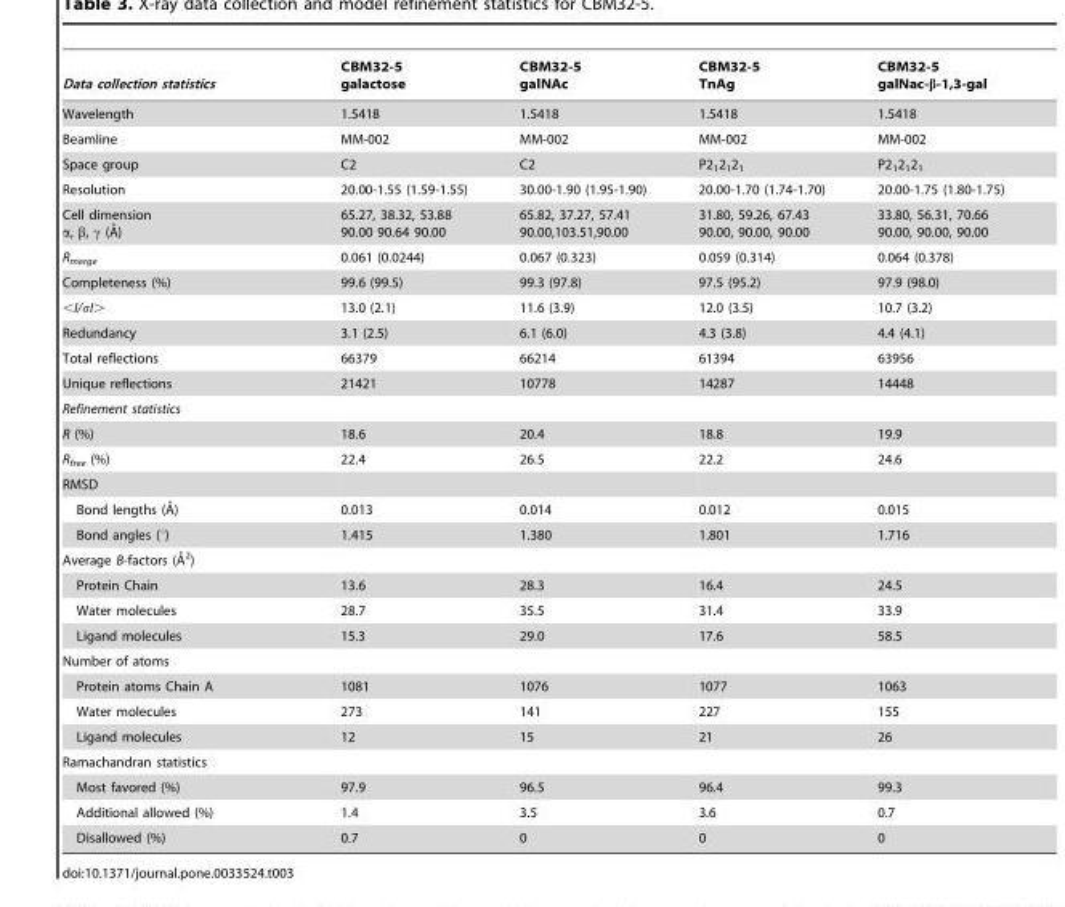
<table><thead><tr><td>Data collection statistics</td><td>CBM32-5 galactose</td><td>CBM32-5 galNAc</td><td>CBM32-5 TnAg</td><td>CBM32-5 galNac-β-1,3-gal</td></tr></thead><tbody><tr><td>Wavelength</td><td>1.5418</td><td>1.5418</td><td>1.5418</td><td>1.5418</td></tr><tr><td>Beamline</td><td>MM-002</td><td>MM-002</td><td>MM-002</td><td>MM-002</td></tr><tr><td>Space group</td><td>C2</td><td>C2</td><td>P2<sub>1</sub>2<sub>1</sub>2<sub>1</sub></td><td>P2<sub>1</sub>2<sub>1</sub>2<sub>1</sub></td></tr><tr><td>Resolution</td><td>20.00-1.55 (1.59-1.55)</td><td>30.00-1.90 (1.95-1.90)</td><td>20.00-1.70 (1.74-1.70)</td><td>20.00-1.75 (1.80-1.75)</td></tr><tr><td>Cell dimension a, b, c (A˚)</td><td>65.27, 38.32, 53.88 90.00 90.64 90.00</td><td>65.82, 37.27, 57.41 90.00,103.51,90.00</td><td>31.80, 59.26, 67.43 90.00, 90.00, 90.00</td><td>33.80, 56.31, 70.66 90.00, 90.00, 90.00</td></tr><tr><td>R<sub>merge</sub></td><td>0.061 (0.0244)</td><td>0.067 (0.323)</td><td>0.059 (0.314)</td><td>0.064 (0.378)</td></tr><tr><td>Completeness (%)</td><td>99.6 (99.5)</td><td>99.3 (97.8)</td><td>97.5 (95.2)</td><td>97.9 (98.0)</td></tr><tr><td>&lt;I/σI&gt;</td><td>13.0 (2.1)</td><td>11.6 (3.9)</td><td>12.0 (3.5)</td><td>10.7 (3.2)</td></tr><tr><td>Redundancy</td><td>3.1 (2.5)</td><td>6.1 (6.0)</td><td>4.3 (3.8)</td><td>4.4 (4.1)</td></tr><tr><td>Total reflections</td><td>66379</td><td>66214</td><td>61394</td><td>63956</td></tr><tr><td>Unique reflections</td><td>21421</td><td>10778</td><td>14287</td><td>14448</td></tr><tr><td colspan="5">Refinement statistics</td></tr><tr><td>R (%)</td><td>18.6</td><td>20.4</td><td>18.8</td><td>19.9</td></tr><tr><td>R<sub>free</sub> (%)</td><td>22.4</td><td>26.5</td><td>22.2</td><td>24.6</td></tr><tr><td colspan="5">RMSD</td></tr><tr><td>Bond lengths (A˚)</td><td>0.013</td><td>0.014</td><td>0.012</td><td>0.015</td></tr><tr><td>Bond angles (°)</td><td>1.415</td><td>1.380</td><td>1.801</td><td>1.716</td></tr><tr><td colspan="5">Average B-factors (A˚2)</td></tr><tr><td>Protein Chain</td><td>13.6</td><td>28.3</td><td>16.4</td><td>24.5</td></tr><tr><td>Water molecules</td><td>28.7</td><td>35.5</td><td>31.4</td><td>33.9</td></tr><tr><td>Ligand molecules</td><td>15.3</td><td>29.0</td><td>17.6</td><td>58.5</td></tr><tr><td colspan="5">Number of atoms</td></tr><tr><td>Protein atoms Chain A</td><td>1081</td><td>1076</td><td>1077</td><td>1063</td></tr><tr><td>Water molecules</td><td>273</td><td>141</td><td>227</td><td>155</td></tr><tr><td>Ligand molecules</td><td>12</td><td>15</td><td>21</td><td>26</td></tr><tr><td colspan="5">Ramachandran statistics</td></tr><tr><td>Most favored (%)</td><td>97.9</td><td>96.5</td><td>96.4</td><td>99.3</td></tr><tr><td>Additional allowed (%)</td><td>1.4</td><td>3.5</td><td>3.6</td><td>0.7</td></tr><tr><td>Disallowed (%)</td><td>0.7</td><td>0</td><td>0</td><td>0</td></tr></tbody></table>